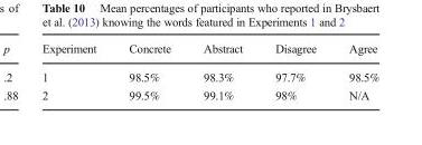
<table><thead><tr><td>Experiment</td><td>Concrete</td><td>Abstract</td><td>Disagree</td><td>Agree</td></tr></thead><tbody><tr><td>1</td><td>98.5%</td><td>98.3%</td><td>97.7%</td><td>98.5%</td></tr><tr><td>2</td><td>99.5%</td><td>99.1%</td><td>98%</td><td>N/A</td></tr></tbody></table>